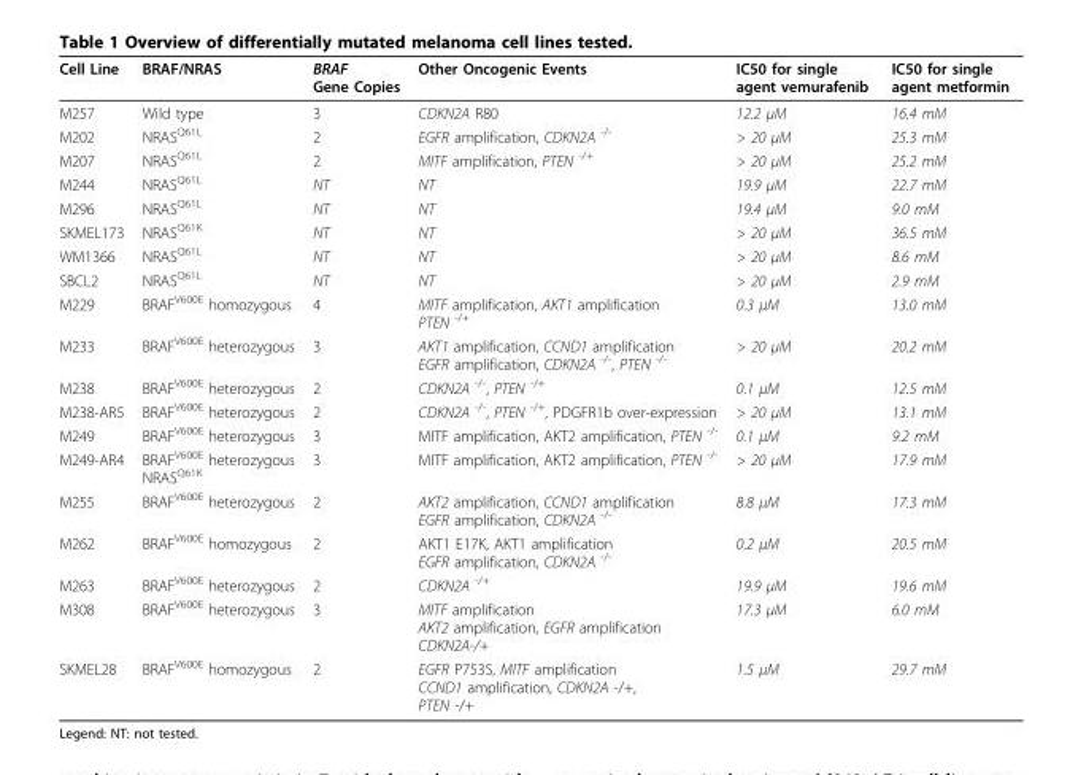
<table><thead><tr><td>Cell Line</td><td>BRAF/NRAS</td><td>BRAF Gene Copies</td><td>Other Oncogenic Events</td><td>IC50 for single agent vemurafenib</td><td>IC50 for single agent metformin</td></tr></thead><tbody><tr><td>M257</td><td>Wild type</td><td>3</td><td>CDKN2A R80</td><td>12.2 μM</td><td>16.4 mM</td></tr><tr><td>M202</td><td>NRAS<sup>Q61L</sup></td><td>2</td><td>EGFR amplification, CDKN2A <sup>-/-</sup></td><td>&gt; 20 μM</td><td>25.3 mM</td></tr><tr><td>M207</td><td>NRAS<sup>Q61L</sup></td><td>2</td><td>MITF amplification, PTEN <sup>-/+</sup></td><td>&gt; 20 μM</td><td>25.2 mM</td></tr><tr><td>M244</td><td>NRAS<sup>Q61L</sup></td><td>NT</td><td>NT</td><td>19.9 μM</td><td>22.7 mM</td></tr><tr><td>M296</td><td>NRAS<sup>Q61L</sup></td><td>NT</td><td>NT</td><td>19.4 μM</td><td>9.0 mM</td></tr><tr><td>SKMEL173</td><td>NRAS<sup>Q61K</sup></td><td>NT</td><td>NT</td><td>&gt; 20 μM</td><td>36.5 mM</td></tr><tr><td>WM1366</td><td>NRAS<sup>Q61L</sup></td><td>NT</td><td>NT</td><td>&gt; 20 μM</td><td>8.6 mM</td></tr><tr><td>SBCL2</td><td>NRAS<sup>Q61L</sup></td><td>NT</td><td>NT</td><td>&gt; 20 μM</td><td>2.9 mM</td></tr><tr><td>M229</td><td>BRAF<sup>V600E</sup> homozygous</td><td>4</td><td>MITF amplification, AKT1 amplification PTEN <sup>-/+</sup></td><td>0.3 μM</td><td>13.0 mM</td></tr><tr><td>M233</td><td>BRAF<sup>V600E</sup> heterozygous</td><td>3</td><td>AKT1 amplification, CCND1 amplification EGFR amplification, CDKN2A <sup>-/-</sup>, PTEN <sup>-/-</sup></td><td>&gt; 20 μM</td><td>20.2 mM</td></tr><tr><td>M238</td><td>BRAF<sup>V600E</sup> heterozygous</td><td>2</td><td>CDKN2A <sup>-/-</sup>, PTEN <sup>-/+</sup></td><td>0.1 μM</td><td>12.5 mM</td></tr><tr><td>M238-AR5</td><td>BRAF<sup>V600E</sup> heterozygous</td><td>2</td><td>CDKN2A <sup>-/-</sup>, PTEN <sup>-/+</sup>, PDGFR1b over-expression</td><td>&gt; 20 μM</td><td>13.1 mM</td></tr><tr><td>M249</td><td>BRAF<sup>V600E</sup> heterozygous</td><td>3</td><td>MITF amplification, AKT2 amplification, PTEN <sup>-/-</sup></td><td>0.1 μM</td><td>9.2 mM</td></tr><tr><td>M249-AR4</td><td>BRAF<sup>V600E</sup> heterozygous NRAS<sup>Q61K</sup></td><td>3</td><td>MITF amplification, AKT2 amplification, PTEN <sup>-/-</sup></td><td>&gt; 20 μM</td><td>17.9 mM</td></tr><tr><td>M255</td><td>BRAF<sup>V600E</sup> heterozygous</td><td>2</td><td>AKT2 amplification, CCND1 amplification EGFR amplification, CDKN2A <sup>-/-</sup></td><td>8.8 μM</td><td>17.3 mM</td></tr><tr><td>M262</td><td>BRAF<sup>V600E</sup> homozygous</td><td>2</td><td>AKT1 E17K, AKT1 amplification EGFR amplification, CDKN2A <sup>-/-</sup></td><td>0.2 μM</td><td>20.5 mM</td></tr><tr><td>M263</td><td>BRAF<sup>V600E</sup> heterozygous</td><td>2</td><td>CDKN2A <sup>-/+</sup></td><td>19.9 μM</td><td>19.6 mM</td></tr><tr><td>M308</td><td>BRAF<sup>V600E</sup> heterozygous</td><td>3</td><td>MITF amplification AKT2 amplification, EGFR amplification CDKN2A-/+</td><td>17.3 μM</td><td>6.0 mM</td></tr><tr><td>SKMEL28</td><td>BRAF<sup>V600E</sup> homozygous</td><td>2</td><td>EGFR P753S, MITF amplification CCND1 amplification, CDKN2A -/+, PTEN -/+</td><td>1.5 μM</td><td>29.7 mM</td></tr></tbody></table>